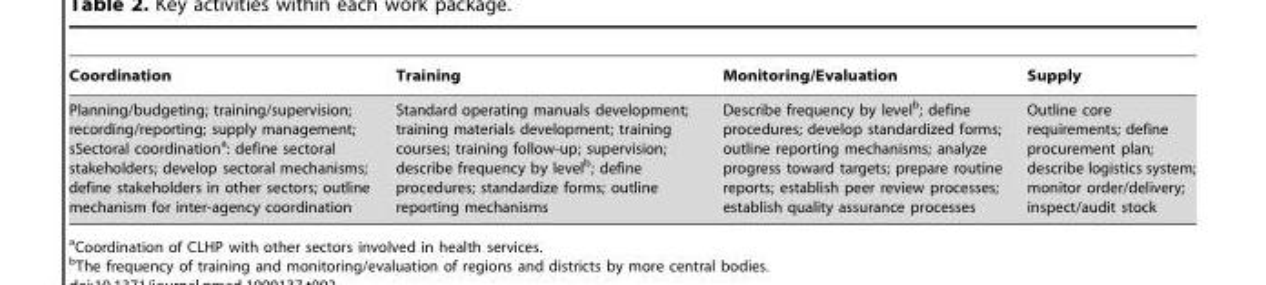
<table><thead><tr><td>Coordination</td><td>Training</td><td>Monitoring/Evaluation</td><td>Supply</td></tr></thead><tbody><tr><td>Planning/budgeting; training/supervision; recording/reporting; supply management; sSectoral coordination<sup>a</sup>: define sectoral stakeholders; develop sectoral mechanisms; define stakeholders in other sectors; outline mechanism for inter-agency coordination</td><td>Standard operating manuals development; training materials development; training courses; training follow-up; supervision; describe frequency by level<sup>b</sup>; define procedures; standardize forms; outline reporting mechanisms</td><td>Describe frequency by level<sup>b</sup>; define procedures; develop standardized forms; outline reporting mechanisms; analyze progress toward targets; prepare routine reports; establish peer review processes; establish quality assurance processes</td><td>Outline core requirements; define procurement plan; describe logistics system; monitor order/delivery; inspect/audit stock</td></tr></tbody></table>